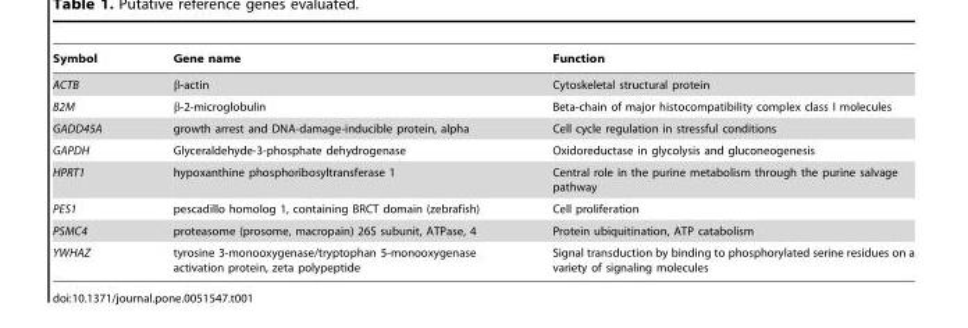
<table><thead><tr><td>Symbol</td><td>Gene name</td><td>Function</td></tr></thead><tbody><tr><td>ACTB</td><td>β-actin</td><td>Cytoskeletal structural protein</td></tr><tr><td>B2M</td><td>β-2-microglobulin</td><td>Beta-chain of major histocompatibility complex class I molecules</td></tr><tr><td>GADD45A</td><td>growth arrest and DNA-damage-inducible protein, alpha</td><td>Cell cycle regulation in stressful conditions</td></tr><tr><td>GAPDH</td><td>Glyceraldehyde-3-phosphate dehydrogenase</td><td>Oxidoreductase in glycolysis and gluconeogenesis</td></tr><tr><td>HPRT1</td><td>hypoxanthine phosphoribosyltransferase 1</td><td>Central role in the purine metabolism through the purine salvage pathway</td></tr><tr><td>PES1</td><td>pescadillo homolog 1, containing BRCT domain (zebrafish)</td><td>Cell proliferation</td></tr><tr><td>PSMC4</td><td>proteasome (prosome, macropain) 26S subunit, ATPase, 4</td><td>Protein ubiquitination, ATP catabolism</td></tr><tr><td>YWHAZ</td><td>tyrosine 3-monooxygenase/tryptophan 5-monooxygenase activation protein, zeta polypeptide</td><td>Signal transduction by binding to phosphorylated serine residues on a variety of signaling molecules</td></tr></tbody></table>